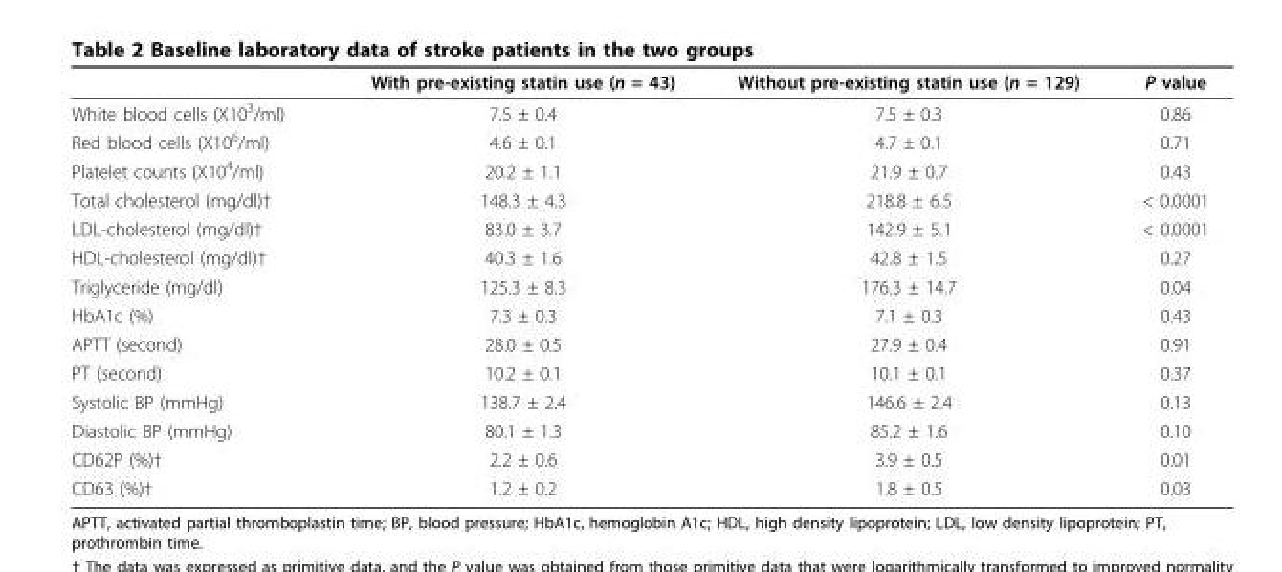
<table><thead><tr><td></td><td>With pre-existing statin use (n = 43)</td><td>Without pre-existing statin use (n = 129)</td><td>P value</td></tr></thead><tbody><tr><td>White blood cells (X10<sup>3</sup>/ml)</td><td>7.5 ± 0.4</td><td>7.5 ± 0.3</td><td>0.86</td></tr><tr><td>Red blood cells (X10<sup>6</sup>/ml)</td><td>4.6 ± 0.1</td><td>4.7 ± 0.1</td><td>0.71</td></tr><tr><td>Platelet counts (X10<sup>4</sup>/ml)</td><td>20.2 ± 1.1</td><td>21.9 ± 0.7</td><td>0.43</td></tr><tr><td>Total cholesterol (mg/dl)†</td><td>148.3 ± 4.3</td><td>218.8 ± 6.5</td><td>&lt; 0.0001</td></tr><tr><td>LDL-cholesterol (mg/dl)†</td><td>83.0 ± 3.7</td><td>142.9 ± 5.1</td><td>&lt; 0.0001</td></tr><tr><td>HDL-cholesterol (mg/dl)†</td><td>40.3 ± 1.6</td><td>42.8 ± 1.5</td><td>0.27</td></tr><tr><td>Triglyceride (mg/dl)</td><td>125.3 ± 8.3</td><td>176.3 ± 14.7</td><td>0.04</td></tr><tr><td>HbA1c (%)</td><td>7.3 ± 0.3</td><td>7.1 ± 0.3</td><td>0.43</td></tr><tr><td>APTT (second)</td><td>28.0 ± 0.5</td><td>27.9 ± 0.4</td><td>0.91</td></tr><tr><td>PT (second)</td><td>10.2 ± 0.1</td><td>10.1 ± 0.1</td><td>0.37</td></tr><tr><td>Systolic BP (mmHg)</td><td>138.7 ± 2.4</td><td>146.6 ± 2.4</td><td>0.13</td></tr><tr><td>Diastolic BP (mmHg)</td><td>80.1 ± 1.3</td><td>85.2 ± 1.6</td><td>0.10</td></tr><tr><td>CD62P (%)†</td><td>2.2 ± 0.6</td><td>3.9 ± 0.5</td><td>0.01</td></tr><tr><td>CD63 (%)†</td><td>1.2 ± 0.2</td><td>1.8 ± 0.5</td><td>0.03</td></tr></tbody></table>